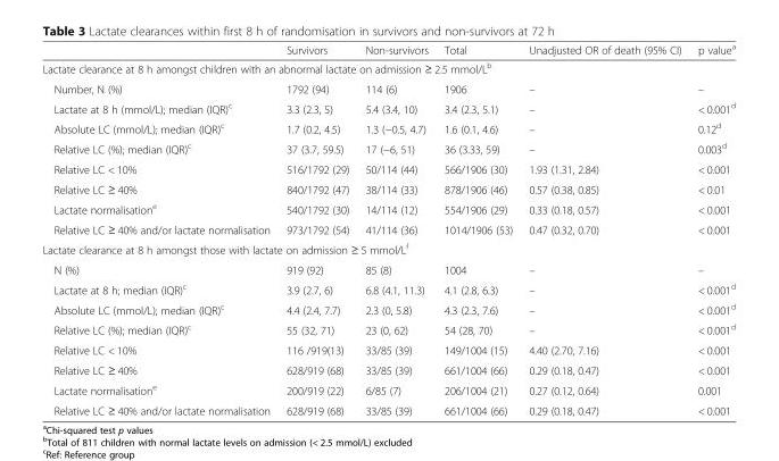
<table><thead><tr><td></td><td>Survivors</td><td>Non-survivors</td><td>Total</td><td>Unadjusted OR of death (95% CI)</td><td>p value<sup>a</sup></td></tr></thead><tbody><tr><td colspan="6">Lactate clearance at 8 h amongst children with an abnormal lactate on admission ≥ 2.5 mmol/L<sup>b</sup></td></tr><tr><td>Number, N (%)</td><td>1792 (94)</td><td>114 (6)</td><td>1906</td><td>–</td><td>–</td></tr><tr><td>Lactate at 8 h (mmol/L); median (IQR)<sup>c</sup></td><td>3.3 (2.3, 5)</td><td>5.4 (3.4, 10)</td><td>3.4 (2.3, 5.1)</td><td>–</td><td>&lt; 0.001<sup>d</sup></td></tr><tr><td>Absolute LC (mmol/L); median (IQR)<sup>c</sup></td><td>1.7 (0.2, 4.5)</td><td>1.3 (−0.5, 4.7)</td><td>1.6 (0.1, 4.6)</td><td>–</td><td>0.12<sup>d</sup></td></tr><tr><td>Relative LC (%); median (IQR)<sup>c</sup></td><td>37 (3.7, 59.5)</td><td>17 (−6, 51)</td><td>36 (3.33, 59)</td><td>–</td><td>0.003<sup>d</sup></td></tr><tr><td>Relative LC &lt; 10%</td><td>516/1792 (29)</td><td>50/114 (44)</td><td>566/1906 (30)</td><td>1.93 (1.31, 2.84)</td><td>&lt; 0.001</td></tr><tr><td>Relative LC ≥ 40%</td><td>840/1792 (47)</td><td>38/114 (33)</td><td>878/1906 (46)</td><td>0.57 (0.38, 0.85)</td><td>&lt; 0.01</td></tr><tr><td>Lactate normalisation<sup>e</sup></td><td>540/1792 (30)</td><td>14/114 (12)</td><td>554/1906 (29)</td><td>0.33 (0.18, 0.57)</td><td>&lt; 0.001</td></tr><tr><td>Relative LC ≥ 40% and/or lactate normalisation</td><td>973/1792 (54)</td><td>41/114 (36)</td><td>1014/1906 (53)</td><td>0.47 (0.32, 0.70)</td><td>&lt; 0.001</td></tr><tr><td colspan="6">Lactate clearance at 8 h amongst those with lactate on admission ≥ 5 mmol/L<sup>f</sup></td></tr><tr><td>N (%)</td><td>919 (92)</td><td>85 (8)</td><td>1004</td><td>–</td><td>–</td></tr><tr><td>Lactate at 8 h; median (IQR)<sup>c</sup></td><td>3.9 (2.7, 6)</td><td>6.8 (4.1, 11.3)</td><td>4.1 (2.8, 6.3)</td><td>–</td><td>&lt; 0.001<sup>d</sup></td></tr><tr><td>Absolute LC (mmol/L); median (IQR)<sup>c</sup></td><td>4.4 (2.4, 7.7)</td><td>2.3 (0, 5.8)</td><td>4.3 (2.3, 7.6)</td><td>–</td><td>&lt; 0.001<sup>d</sup></td></tr><tr><td>Relative LC (%); median (IQR)<sup>c</sup></td><td>55 (32, 71)</td><td>23 (0, 62)</td><td>54 (28, 70)</td><td>–</td><td>&lt; 0.001<sup>d</sup></td></tr><tr><td>Relative LC &lt; 10%</td><td>116 /919(13)</td><td>33/85 (39)</td><td>149/1004 (15)</td><td>4.40 (2.70, 7.16)</td><td>&lt; 0.001</td></tr><tr><td>Relative LC ≥ 40%</td><td>628/919 (68)</td><td>33/85 (39)</td><td>661/1004 (66)</td><td>0.29 (0.18, 0.47)</td><td>&lt; 0.001</td></tr><tr><td>Lactate normalisation<sup>e</sup></td><td>200/919 (22)</td><td>6/85 (7)</td><td>206/1004 (21)</td><td>0.27 (0.12, 0.64)</td><td>0.001</td></tr><tr><td>Relative LC ≥ 40% and/or lactate normalisation</td><td>628/919 (68)</td><td>33/85 (39)</td><td>661/1004 (66)</td><td>0.29 (0.18, 0.47)</td><td>&lt; 0.001</td></tr></tbody></table>